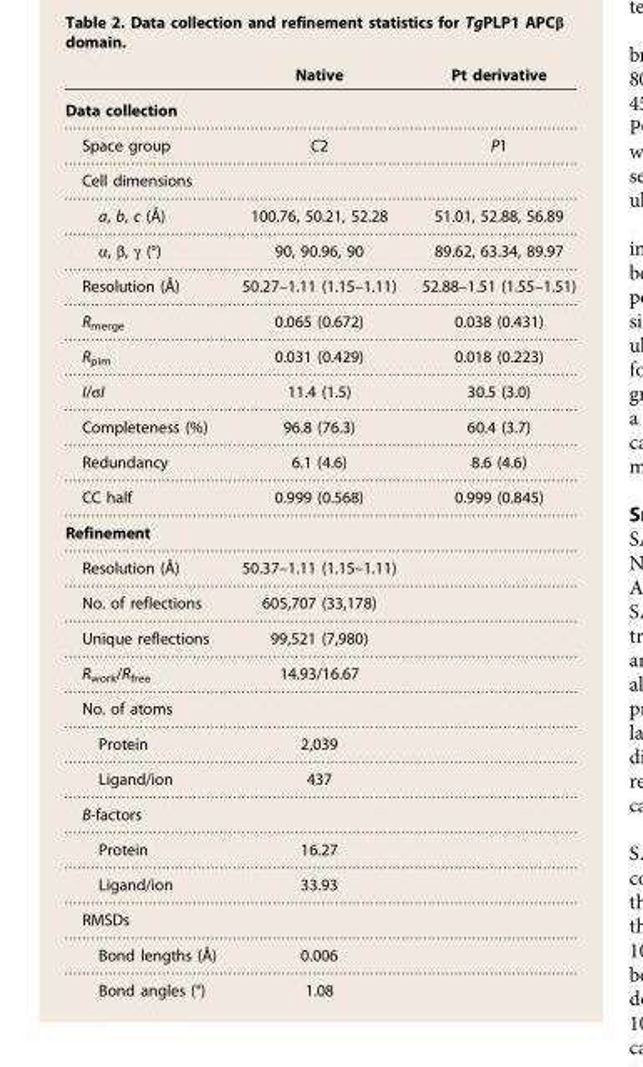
<table><thead><tr><td></td><td>Native</td><td>Pt derivative</td></tr></thead><tbody><tr><td colspan="3">Data collection</td></tr><tr><td>Space group</td><td>C2</td><td>P1</td></tr><tr><td colspan="3">Cell dimensions</td></tr><tr><td>a, b, c (Å)</td><td>100.76, 50.21, 52.28</td><td>51.01, 52.88, 56.89</td></tr><tr><td>α, β, γ (°)</td><td>90, 90.96, 90</td><td>89.62, 63.34, 89.97</td></tr><tr><td>Resolution (Å)</td><td>50.27–1.11 (1.15–1.11)</td><td>52.88–1.51 (1.55–1.51)</td></tr><tr><td>R<sub>merge</sub></td><td>0.065 (0.672)</td><td>0.038 (0.431)</td></tr><tr><td>R<sub>pim</sub></td><td>0.031 (0.429)</td><td>0.018 (0.223)</td></tr><tr><td>I/σI</td><td>11.4 (1.5)</td><td>30.5 (3.0)</td></tr><tr><td>Completeness (%)</td><td>96.8 (76.3)</td><td>60.4 (3.7)</td></tr><tr><td>Redundancy</td><td>6.1 (4.6)</td><td>8.6 (4.6)</td></tr><tr><td>CC half</td><td>0.999 (0.568)</td><td>0.999 (0.845)</td></tr><tr><td colspan="3">Refinement</td></tr><tr><td>Resolution (Å)</td><td>50.37–1.11 (1.15–1.11)</td><td></td></tr><tr><td>No. of reflections</td><td>605,707 (33,178)</td><td></td></tr><tr><td>Unique reflections</td><td>99,521 (7,980)</td><td></td></tr><tr><td>R<sub>work</sub>/R<sub>free</sub></td><td>14.93/16.67</td><td></td></tr><tr><td colspan="3">No. of atoms</td></tr><tr><td>Protein</td><td>2,039</td><td></td></tr><tr><td>Ligand/ion</td><td>437</td><td></td></tr><tr><td colspan="3">B-factors</td></tr><tr><td>Protein</td><td>16.27</td><td></td></tr><tr><td>Ligand/ion</td><td>33.93</td><td></td></tr><tr><td colspan="3">RMSDs</td></tr><tr><td>Bond lengths (Å)</td><td>0.006</td><td></td></tr><tr><td>Bond angles (°)</td><td>1.08</td><td></td></tr></tbody></table>